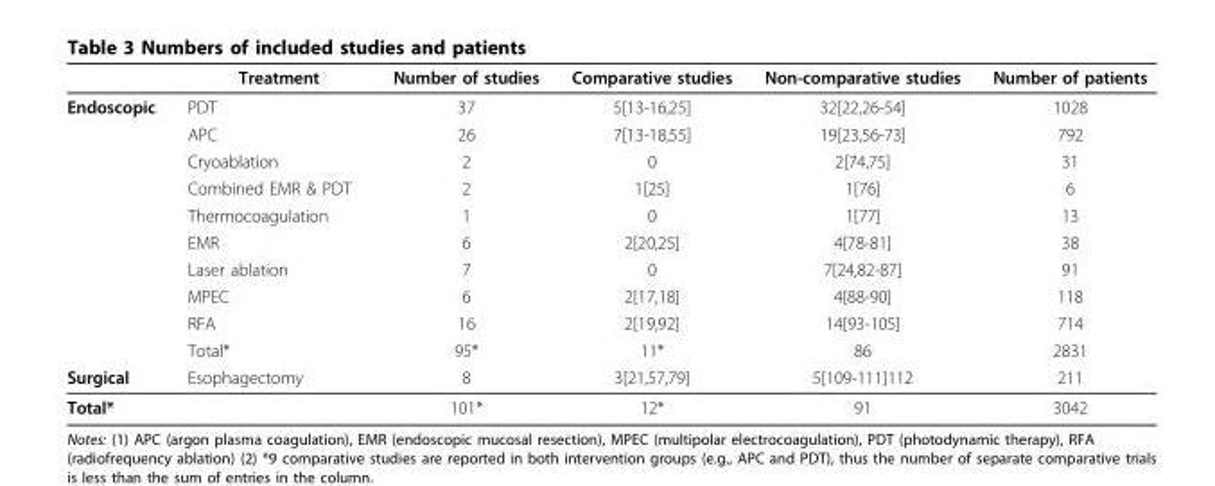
<table><thead><tr><td></td><td>Treatment</td><td>Number of studies</td><td>Comparative studies</td><td>Non-comparative studies</td><td>Number of patients</td></tr></thead><tbody><tr><td rowspan="10">Endoscopic</td><td>PDT</td><td>37</td><td>5[13-16,25]</td><td>32[22,26-54]</td><td>1028</td></tr><tr><td>APC</td><td>26</td><td>7[13-18,55]</td><td>19[23,56-73]</td><td>792</td></tr><tr><td>Cryoablation</td><td>2</td><td>0</td><td>2[74,75]</td><td>31</td></tr><tr><td>Combined EMR &amp; PDT</td><td>2</td><td>1[25]</td><td>1[76]</td><td>6</td></tr><tr><td>Thermocoagulation</td><td>1</td><td>0</td><td>1[77]</td><td>13</td></tr><tr><td>EMR</td><td>6</td><td>2[20,25]</td><td>4[78-81]</td><td>38</td></tr><tr><td>Laser ablation</td><td>7</td><td>0</td><td>7[24,82-87]</td><td>91</td></tr><tr><td>MPEC</td><td>6</td><td>2[17,18]</td><td>4[88-90]</td><td>118</td></tr><tr><td>RFA</td><td>16</td><td>2[19,92]</td><td>14[93-105]</td><td>714</td></tr><tr><td>Total*</td><td>95*</td><td>11*</td><td>86</td><td>2831</td></tr><tr><td>Surgical</td><td>Esophagectomy</td><td>8</td><td>3[21,57,79]</td><td>5[109-111]112</td><td>211</td></tr><tr><td>Total*</td><td></td><td>101*</td><td>12*</td><td>91</td><td>3042</td></tr></tbody></table>